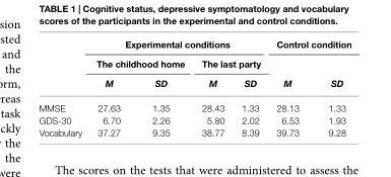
<table><thead><tr><td rowspan="3"></td><td colspan="4">Experimental conditions</td><td colspan="2">Control condition</td></tr><tr><td colspan="2">The childhood home</td><td colspan="2">The last party</td><td rowspan="2">M</td><td rowspan="2">SD</td></tr><tr><td>M</td><td>SD</td><td>M</td><td>SD</td></tr></thead><tbody><tr><td>MMSE</td><td>27.63</td><td>1.35</td><td>28.43</td><td>1.33</td><td>28.13</td><td>1.33</td></tr><tr><td>GDS-30</td><td>6.70</td><td>2.26</td><td>5.80</td><td>2.02</td><td>6.53</td><td>1.93</td></tr><tr><td>Vocabulary</td><td>37.27</td><td>9.35</td><td>38.77</td><td>8.39</td><td>39.73</td><td>9.28</td></tr></tbody></table>